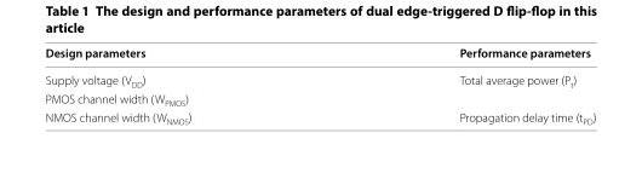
<table><thead><tr><td>Design parameters</td><td>Performance parameters</td></tr></thead><tbody><tr><td>Supply voltage (V<sub>DD</sub>)</td><td rowspan="2">Total average power (P<sub>t</sub>)</td></tr><tr><td>PMOS channel width (W<sub>PMOS</sub>)</td></tr><tr><td>NMOS channel width (W<sub>NMOS</sub>)</td><td>Propagation delay time (t<sub>PD</sub>)</td></tr></tbody></table>